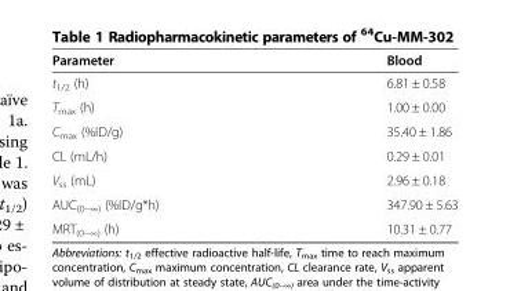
<table><thead><tr><td>Parameter</td><td>Blood</td></tr></thead><tbody><tr><td>t<sub>1/2</sub> (h)</td><td>6.81 ± 0.58</td></tr><tr><td>T<sub>max</sub> (h)</td><td>1.00 ± 0.00</td></tr><tr><td>C<sub>max</sub> (%ID/g)</td><td>35.40 ± 1.86</td></tr><tr><td>CL (mL/h)</td><td>0.29 ± 0.01</td></tr><tr><td>V<sub>ss</sub> (mL)</td><td>2.96 ± 0.18</td></tr><tr><td>AUC<sub>(0−∞)</sub> (%ID/g*h)</td><td>347.90 ± 5.63</td></tr><tr><td>MRT<sub>(0−∞)</sub> (h)</td><td>10.31 ± 0.77</td></tr></tbody></table>